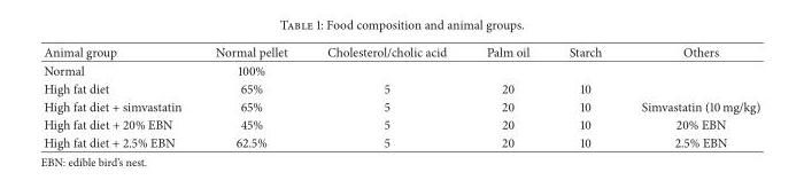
<table><thead><tr><td>Animal group</td><td>Normal pellet</td><td>Cholesterol/cholic acid</td><td>Palm oil</td><td>Starch</td><td>Others</td></tr></thead><tbody><tr><td>Normal</td><td>100%</td><td></td><td></td><td></td><td></td></tr><tr><td>High fat diet</td><td>65%</td><td>5</td><td>20</td><td>10</td><td></td></tr><tr><td>High fat diet + simvastatin</td><td>65%</td><td>5</td><td>20</td><td>10</td><td>Simvastatin (10 mg/kg)</td></tr><tr><td>High fat diet + 20% EBN</td><td>45%</td><td>5</td><td>20</td><td>10</td><td>20% EBN</td></tr><tr><td>High fat diet + 2.5% EBN</td><td>62.5%</td><td>5</td><td>20</td><td>10</td><td>2.5% EBN</td></tr></tbody></table>